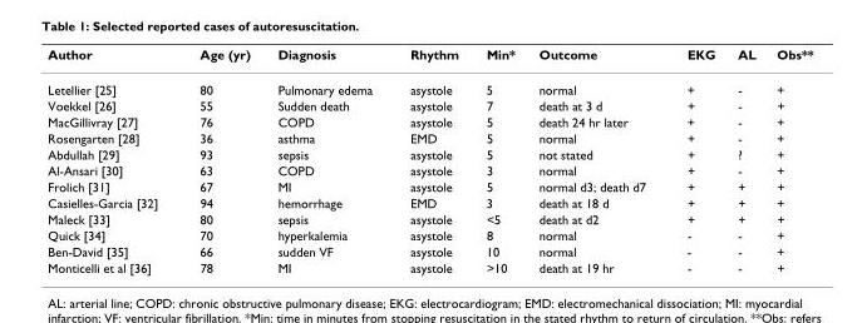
<table><thead><tr><td>Author</td><td>Age (yr)</td><td>Diagnosis</td><td>Rhythm</td><td>Min*</td><td>Outcome</td><td>EKG</td><td>AL</td><td>Obs**</td></tr></thead><tbody><tr><td>Letellier [25]</td><td>80</td><td>Pulmonary edema</td><td>asystole</td><td>5</td><td>normal</td><td>+</td><td>-</td><td>+</td></tr><tr><td>Voekkel [26]</td><td>55</td><td>Sudden death</td><td>asystole</td><td>7</td><td>death at 3 d</td><td>+</td><td>-</td><td>+</td></tr><tr><td>MacGillivray [27]</td><td>76</td><td>COPD</td><td>asystole</td><td>5</td><td>death 24 hr later</td><td>+</td><td>-</td><td>+</td></tr><tr><td>Rosengarten [28]</td><td>36</td><td>asthma</td><td>EMD</td><td>5</td><td>normal</td><td>+</td><td>-</td><td>+</td></tr><tr><td>Abdullah [29]</td><td>93</td><td>sepsis</td><td>asystole</td><td>5</td><td>not stated</td><td>+</td><td>?</td><td>+</td></tr><tr><td>Al-Ansari [30]</td><td>63</td><td>COPD</td><td>asystole</td><td>3</td><td>normal</td><td>+</td><td>-</td><td>+</td></tr><tr><td>Frolich [31]</td><td>67</td><td>MI</td><td>asystole</td><td>5</td><td>normal d3; death d7</td><td>+</td><td>+</td><td>+</td></tr><tr><td>Casielles-Garcia [32]</td><td>94</td><td>hemorrhage</td><td>EMD</td><td>3</td><td>death at 18 d</td><td>+</td><td>+</td><td>+</td></tr><tr><td>Maleck [33]</td><td>80</td><td>sepsis</td><td>asystole</td><td>&lt;5</td><td>death at d2</td><td>+</td><td>+</td><td>+</td></tr><tr><td>Quick [34]</td><td>70</td><td>hyperkalemia</td><td>asystole</td><td>8</td><td>normal</td><td>-</td><td>-</td><td>+</td></tr><tr><td>Ben-David [35]</td><td>66</td><td>sudden VF</td><td>asystole</td><td>10</td><td>normal</td><td>-</td><td>-</td><td>+</td></tr><tr><td>Monticelli et al [36]</td><td>78</td><td>MI</td><td>asystole</td><td>&gt;10</td><td>death at 19 hr</td><td>-</td><td>-</td><td>+</td></tr></tbody></table>